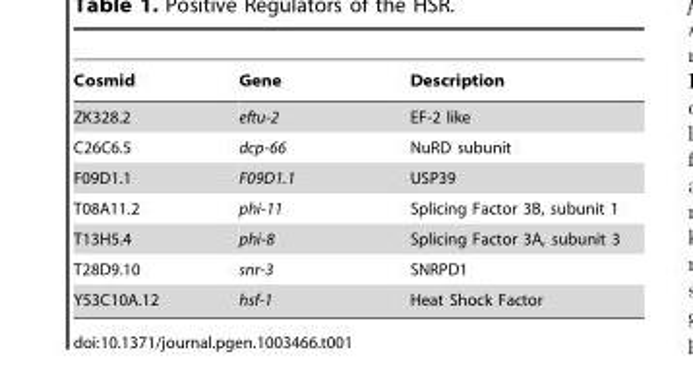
<table><thead><tr><td>Cosmid</td><td>Gene</td><td>Description</td></tr></thead><tbody><tr><td>ZK328.2</td><td>eftu-2</td><td>EF-2 like</td></tr><tr><td>C26C6.5</td><td>dcp-66</td><td>NuRD subunit</td></tr><tr><td>F09D1.1</td><td>F09D1.1</td><td>USP39</td></tr><tr><td>T08A11.2</td><td>phi-11</td><td>Splicing Factor 3B, subunit 1</td></tr><tr><td>T13H5.4</td><td>phi-8</td><td>Splicing Factor 3A, subunit 3</td></tr><tr><td>T28D9.10</td><td>snr-3</td><td>SNRPD1</td></tr><tr><td>Y53C10A.12</td><td>hsf-1</td><td>Heat Shock Factor</td></tr></tbody></table>